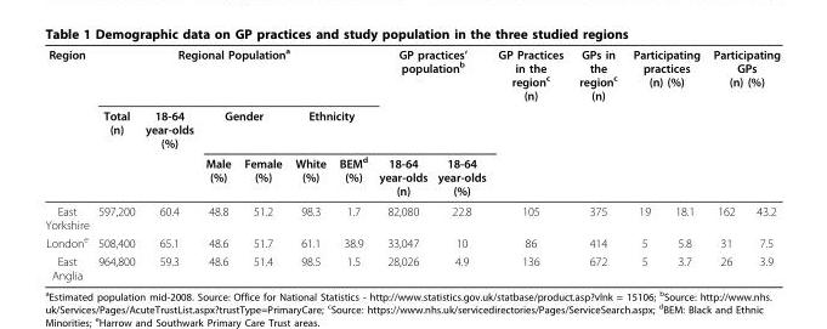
<table><thead><tr><td rowspan="3">Region</td><td colspan="6">Regional Population<sup>a</sup></td><td colspan="2">GP practices’ population<sup>b</sup></td><td rowspan="3">GP Practices in the region<sup>c</sup> (n)</td><td rowspan="3">GPs in the region<sup>c</sup> (n)</td><td colspan="2">Participating practices (n) (%)</td><td colspan="2">Participating GPs (n) (%)</td></tr><tr><td rowspan="2">Total (n)</td><td rowspan="2">18-64 year-olds (%)</td><td colspan="2">Gender</td><td colspan="2">Ethnicity</td><td rowspan="2">18-64 year-olds (n)</td><td rowspan="2">18-64 year-olds (%)</td><td rowspan="2"></td><td rowspan="2"></td><td rowspan="2"></td><td rowspan="2"></td></tr><tr><td>Male (%)</td><td>Female (%)</td><td>White (%)</td><td>BEM<sup>d</sup> (%)</td></tr></thead><tbody><tr><td>East Yorkshire</td><td>597,200</td><td>60.4</td><td>48.8</td><td>51.2</td><td>98.3</td><td>1.7</td><td>82,080</td><td>22.8</td><td>105</td><td>375</td><td>19</td><td>18.1</td><td>162</td><td>43.2</td></tr><tr><td>London<sup>e</sup></td><td>508,400</td><td>65.1</td><td>48.6</td><td>51.7</td><td>61.1</td><td>38.9</td><td>33,047</td><td>10</td><td>86</td><td>414</td><td>5</td><td>5.8</td><td>31</td><td>7.5</td></tr><tr><td>East Anglia</td><td>964,800</td><td>59.3</td><td>48.6</td><td>51.4</td><td>98.5</td><td>1.5</td><td>28,026</td><td>4.9</td><td>136</td><td>672</td><td>5</td><td>3.7</td><td>26</td><td>3.9</td></tr></tbody></table>